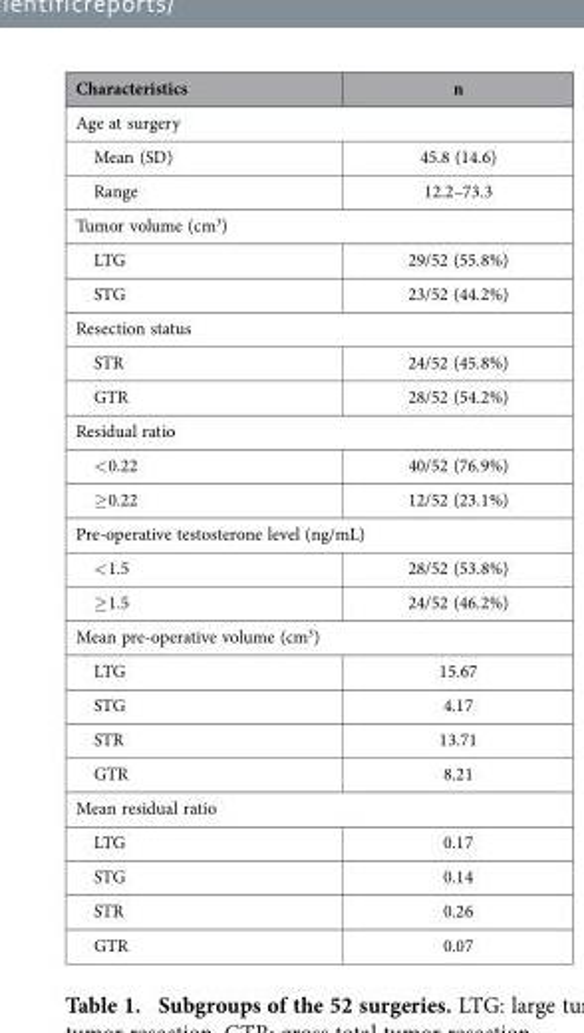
<table><thead><tr><td>Characteristics</td><td>n</td></tr></thead><tbody><tr><td colspan="2">Age at surgery</td></tr><tr><td>Mean (SD)</td><td>45.8 (14.6)</td></tr><tr><td>Range</td><td>12.2–73.3</td></tr><tr><td colspan="2">Tumor volume (cm<sup>3</sup>)</td></tr><tr><td>LTG</td><td>29/52 (55.8%)</td></tr><tr><td>STG</td><td>23/52 (44.2%)</td></tr><tr><td colspan="2">Resection status</td></tr><tr><td>STR</td><td>24/52 (45.8%)</td></tr><tr><td>GTR</td><td>28/52 (54.2%)</td></tr><tr><td colspan="2">Residual ratio</td></tr><tr><td>&lt; 0.22</td><td>40/52 (76.9%)</td></tr><tr><td>≥ 0.22</td><td>12/52 (23.1%)</td></tr><tr><td colspan="2">Pre-operative testosterone level (ng/mL)</td></tr><tr><td>&lt; 1.5</td><td>28/52 (53.8%)</td></tr><tr><td>≥ 1.5</td><td>24/52 (46.2%)</td></tr><tr><td colspan="2">Mean pre-operative volume (cm<sup>3</sup>)</td></tr><tr><td>LTG</td><td>15.67</td></tr><tr><td>STG</td><td>4.17</td></tr><tr><td>STR</td><td>13.71</td></tr><tr><td>GTR</td><td>8.21</td></tr><tr><td colspan="2">Mean residual ratio</td></tr><tr><td>LTG</td><td>0.17</td></tr><tr><td>STG</td><td>0.14</td></tr><tr><td>STR</td><td>0.26</td></tr><tr><td>GTR</td><td>0.07</td></tr></tbody></table>